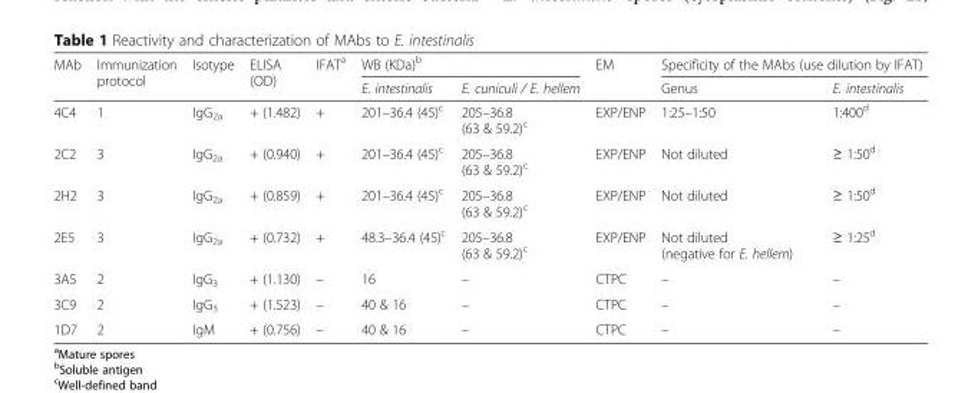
<table><thead><tr><td rowspan="2">MAb</td><td rowspan="2">Immunization protocol</td><td rowspan="2">Isotype</td><td rowspan="2">ELISA (OD)</td><td rowspan="2">IFAT<sup>a</sup></td><td colspan="2">WB (KDa)<sup>b</sup></td><td rowspan="2">EM</td><td colspan="2">Specificity of the MAbs (use dilution by IFAT)</td></tr><tr><td>E. intestinalis</td><td>E. cuniculi / E. hellem</td><td>Genus</td><td>E. intestinalis</td></tr></thead><tbody><tr><td>4C4</td><td>1</td><td>IgG<sub>2a</sub></td><td>+ (1.482)</td><td>+</td><td>201–36.4 (45)<sup>c</sup></td><td>205–36.8 (63 &amp; 59.2)<sup>c</sup></td><td>EXP/ENP</td><td>1:25–1:50</td><td>1:400<sup>d</sup></td></tr><tr><td>2C2</td><td>3</td><td>IgG<sub>2a</sub></td><td>+ (0.940)</td><td>+</td><td>201–36.4 (45)<sup>c</sup></td><td>205–36.8 (63 &amp; 59.2)<sup>c</sup></td><td>EXP/ENP</td><td>Not diluted</td><td>≥ 1:50<sup>d</sup></td></tr><tr><td>2H2</td><td>3</td><td>IgG<sub>2a</sub></td><td>+ (0.859)</td><td>+</td><td>201–36.4 (45)<sup>c</sup></td><td>205–36.8 (63 &amp; 59.2)<sup>c</sup></td><td>EXP/ENP</td><td>Not diluted</td><td>≥ 1:50<sup>d</sup></td></tr><tr><td>2E5</td><td>3</td><td>IgG<sub>2a</sub></td><td>+ (0.732)</td><td>+</td><td>48.3–36.4 (45)<sup>c</sup></td><td>205–36.8 (63 &amp; 59.2)<sup>c</sup></td><td>EXP/ENP</td><td>Not diluted (negative for E. hellem)</td><td>≥ 1:25<sup>d</sup></td></tr><tr><td>3A5</td><td>2</td><td>IgG<sub>3</sub></td><td>+ (1.130)</td><td>–</td><td>16</td><td>–</td><td>CTPC</td><td>–</td><td>–</td></tr><tr><td>3C9</td><td>2</td><td>IgG<sub>3</sub></td><td>+ (1.523)</td><td>–</td><td>40 &amp; 16</td><td>–</td><td>CTPC</td><td>–</td><td>–</td></tr><tr><td>1D7</td><td>2</td><td>IgM</td><td>+ (0.756)</td><td>–</td><td>40 &amp; 16</td><td>–</td><td>CTPC</td><td>–</td><td>–</td></tr></tbody></table>